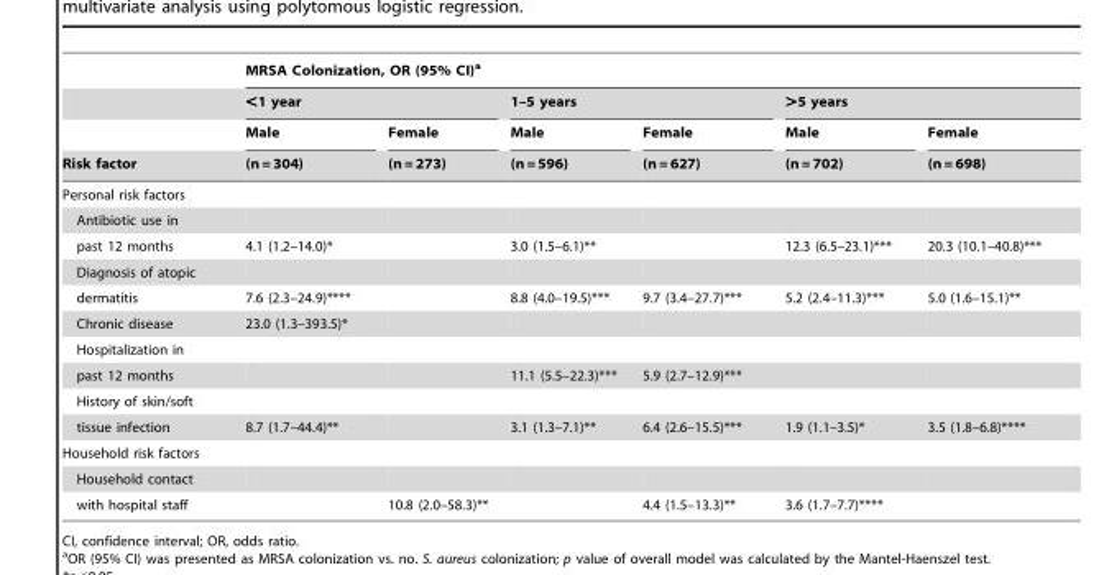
<table><thead><tr><td rowspan="4">Risk factor</td><td colspan="6">MRSA Colonization, OR (95% CI)<sup>a</sup></td></tr><tr><td colspan="2">&lt;1 year</td><td colspan="2">1–5 years</td><td colspan="2">&gt;5 years</td></tr><tr><td rowspan="2">Male (n = 304)</td><td rowspan="2">Female (n = 273)</td><td rowspan="2">Male (n = 596)</td><td rowspan="2">Female (n = 627)</td><td rowspan="2">Male (n = 702)</td><td rowspan="2">Female (n = 698)</td></tr><tr></tr></thead><tbody><tr><td colspan="7">Personal risk factors</td></tr><tr><td colspan="7">Antibiotic use in</td></tr><tr><td>past 12 months</td><td>4.1 (1.2–14.0)*</td><td></td><td>3.0 (1.5–6.1)**</td><td></td><td>12.3 (6.5–23.1)***</td><td>20.3 (10.1–40.8)***</td></tr><tr><td colspan="7">Diagnosis of atopic</td></tr><tr><td>dermatitis</td><td>7.6 (2.3–24.9)****</td><td></td><td>8.8 (4.0–19.5)***</td><td>9.7 (3.4–27.7)***</td><td>5.2 (2.4–11.3)***</td><td>5.0 (1.6–15.1)**</td></tr><tr><td>Chronic disease</td><td>23.0 (1.3–393.5)*</td><td></td><td></td><td></td><td></td><td></td></tr><tr><td colspan="7">Hospitalization in</td></tr><tr><td>past 12 months</td><td></td><td></td><td>11.1 (5.5–22.3)***</td><td>5.9 (2.7–12.9)***</td><td></td><td></td></tr><tr><td colspan="7">History of skin/soft</td></tr><tr><td>tissue infection</td><td>8.7 (1.7–44.4)**</td><td></td><td>3.1 (1.3–7.1)**</td><td>6.4 (2.6–15.5)***</td><td>1.9 (1.1–3.5)*</td><td>3.5 (1.8–6.8)****</td></tr><tr><td colspan="7">Household risk factors</td></tr><tr><td colspan="7">Household contact</td></tr><tr><td>with hospital staff</td><td></td><td>10.8 (2.0–58.3)**</td><td></td><td>4.4 (1.5–13.3)**</td><td>3.6 (1.7–7.7)****</td><td></td></tr></tbody></table>